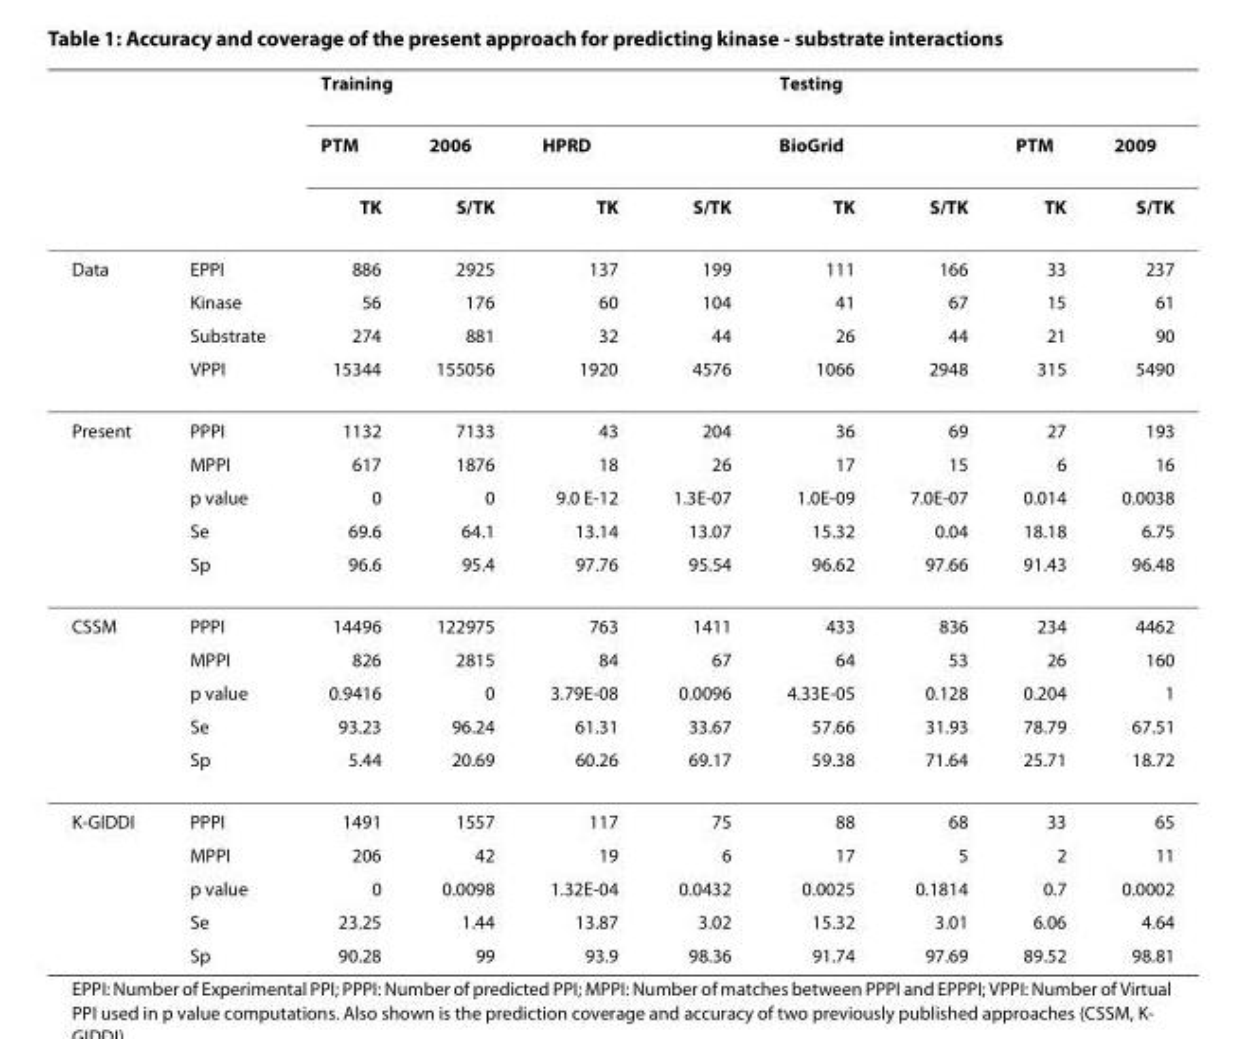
<table><thead><tr><td rowspan="3"></td><td rowspan="3"></td><td colspan="4">Training</td><td colspan="4">Testing</td></tr><tr><td rowspan="2">PTM TK</td><td rowspan="2">2006 S/TK</td><td colspan="2">HPRD</td><td colspan="2">BioGrid</td><td rowspan="2">PTM TK</td><td rowspan="2">2009 S/TK</td></tr><tr><td>TK</td><td>S/TK</td><td>TK</td><td>S/TK</td></tr></thead><tbody><tr><td rowspan="4">Data</td><td>EPPI</td><td>886</td><td>2925</td><td>137</td><td>199</td><td>111</td><td>166</td><td>33</td><td>237</td></tr><tr><td>Kinase</td><td>56</td><td>176</td><td>60</td><td>104</td><td>41</td><td>67</td><td>15</td><td>61</td></tr><tr><td>Substrate</td><td>274</td><td>881</td><td>32</td><td>44</td><td>26</td><td>44</td><td>21</td><td>90</td></tr><tr><td>VPPI</td><td>15344</td><td>155056</td><td>1920</td><td>4576</td><td>1066</td><td>2948</td><td>315</td><td>5490</td></tr><tr><td rowspan="5">Present</td><td>PPPI</td><td>1132</td><td>7133</td><td>43</td><td>204</td><td>36</td><td>69</td><td>27</td><td>193</td></tr><tr><td>MPPI</td><td>617</td><td>1876</td><td>18</td><td>26</td><td>17</td><td>15</td><td>6</td><td>16</td></tr><tr><td>p value</td><td>0</td><td>0</td><td>9.0 E-12</td><td>1.3E-07</td><td>1.0E-09</td><td>7.0E-07</td><td>0.014</td><td>0.0038</td></tr><tr><td>Se</td><td>69.6</td><td>64.1</td><td>13.14</td><td>13.07</td><td>15.32</td><td>0.04</td><td>18.18</td><td>6.75</td></tr><tr><td>Sp</td><td>96.6</td><td>95.4</td><td>97.76</td><td>95.54</td><td>96.62</td><td>97.66</td><td>91.43</td><td>96.48</td></tr><tr><td rowspan="5">CSSM</td><td>PPPI</td><td>14496</td><td>122975</td><td>763</td><td>1411</td><td>433</td><td>836</td><td>234</td><td>4462</td></tr><tr><td>MPPI</td><td>826</td><td>2815</td><td>84</td><td>67</td><td>64</td><td>53</td><td>26</td><td>160</td></tr><tr><td>p value</td><td>0.9416</td><td>0</td><td>3.79E-08</td><td>0.0096</td><td>4.33E-05</td><td>0.128</td><td>0.204</td><td>1</td></tr><tr><td>Se</td><td>93.23</td><td>96.24</td><td>61.31</td><td>33.67</td><td>57.66</td><td>31.93</td><td>78.79</td><td>67.51</td></tr><tr><td>Sp</td><td>5.44</td><td>20.69</td><td>60.26</td><td>69.17</td><td>59.38</td><td>71.64</td><td>25.71</td><td>18.72</td></tr><tr><td rowspan="5">K-GIDDI</td><td>PPPI</td><td>1491</td><td>1557</td><td>117</td><td>75</td><td>88</td><td>68</td><td>33</td><td>65</td></tr><tr><td>MPPI</td><td>206</td><td>42</td><td>19</td><td>6</td><td>17</td><td>5</td><td>2</td><td>11</td></tr><tr><td>p value</td><td>0</td><td>0.0098</td><td>1.32E-04</td><td>0.0432</td><td>0.0025</td><td>0.1814</td><td>0.7</td><td>0.0002</td></tr><tr><td>Se</td><td>23.25</td><td>1.44</td><td>13.87</td><td>3.02</td><td>15.32</td><td>3.01</td><td>6.06</td><td>4.64</td></tr><tr><td>Sp</td><td>90.28</td><td>99</td><td>93.9</td><td>98.36</td><td>91.74</td><td>97.69</td><td>89.52</td><td>98.81</td></tr></tbody></table>